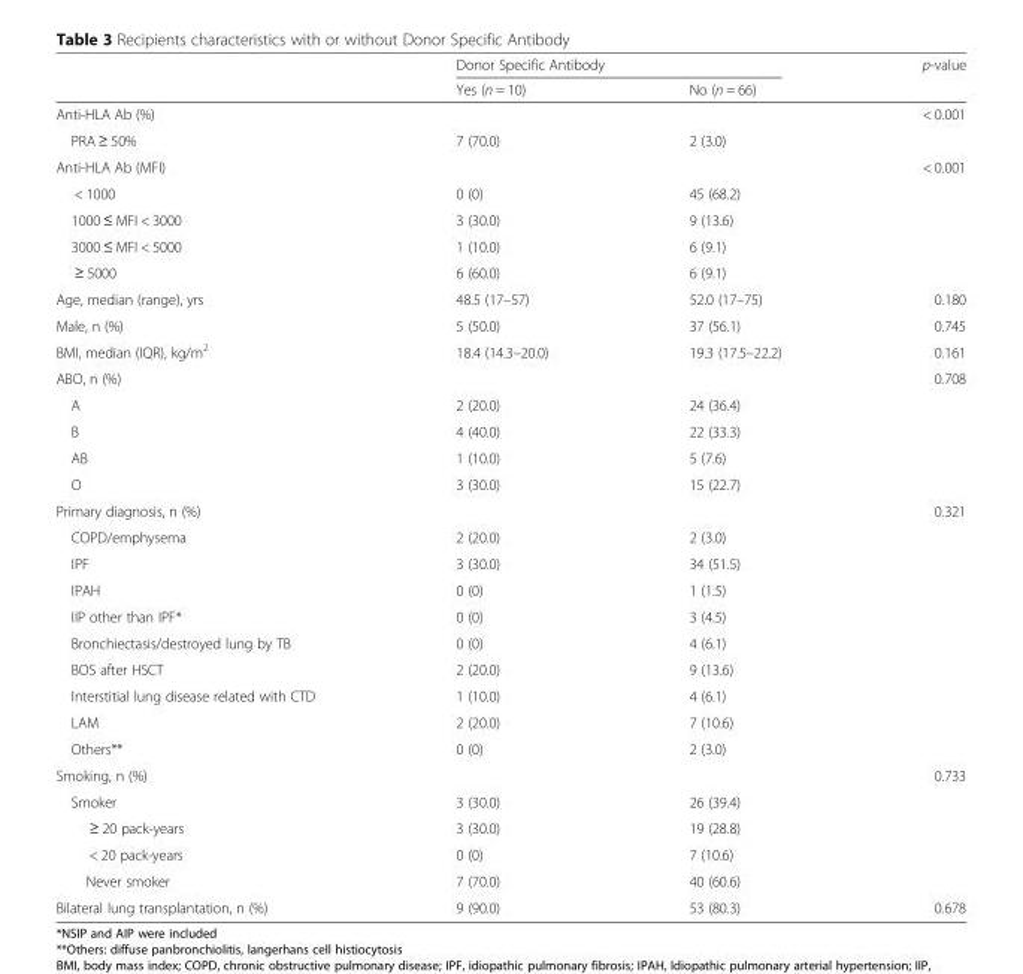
<table><thead><tr><td rowspan="2"></td><td colspan="2">Donor Specific Antibody</td><td rowspan="2">p-value</td></tr><tr><td>Yes (n = 10)</td><td>No (n = 66)</td></tr></thead><tbody><tr><td>Anti-HLA Ab (%)</td><td></td><td></td><td>&lt; 0.001</td></tr><tr><td>PRA ≥ 50%</td><td>7 (70.0)</td><td>2 (3.0)</td><td></td></tr><tr><td>Anti-HLA Ab (MFI)</td><td></td><td></td><td>&lt; 0.001</td></tr><tr><td>&lt; 1000</td><td>0 (0)</td><td>45 (68.2)</td><td></td></tr><tr><td>1000 ≤ MFI &lt; 3000</td><td>3 (30.0)</td><td>9 (13.6)</td><td></td></tr><tr><td>3000 ≤ MFI &lt; 5000</td><td>1 (10.0)</td><td>6 (9.1)</td><td></td></tr><tr><td>≥ 5000</td><td>6 (60.0)</td><td>6 (9.1)</td><td></td></tr><tr><td>Age, median (range), yrs</td><td>48.5 (17–57)</td><td>52.0 (17–75)</td><td>0.180</td></tr><tr><td>Male, n (%)</td><td>5 (50.0)</td><td>37 (56.1)</td><td>0.745</td></tr><tr><td>BMI, median (IQR), kg/m<sup>2</sup></td><td>18.4 (14.3–20.0)</td><td>19.3 (17.5–22.2)</td><td>0.161</td></tr><tr><td>ABO, n (%)</td><td></td><td></td><td>0.708</td></tr><tr><td>A</td><td>2 (20.0)</td><td>24 (36.4)</td><td></td></tr><tr><td>B</td><td>4 (40.0)</td><td>22 (33.3)</td><td></td></tr><tr><td>AB</td><td>1 (10.0)</td><td>5 (7.6)</td><td></td></tr><tr><td>O</td><td>3 (30.0)</td><td>15 (22.7)</td><td></td></tr><tr><td>Primary diagnosis, n (%)</td><td></td><td></td><td>0.321</td></tr><tr><td>COPD/emphysema</td><td>2 (20.0)</td><td>2 (3.0)</td><td></td></tr><tr><td>IPF</td><td>3 (30.0)</td><td>34 (51.5)</td><td></td></tr><tr><td>IPAH</td><td>0 (0)</td><td>1 (1.5)</td><td></td></tr><tr><td>IIP other than IPF*</td><td>0 (0)</td><td>3 (4.5)</td><td></td></tr><tr><td>Bronchiectasis/destroyed lung by TB</td><td>0 (0)</td><td>4 (6.1)</td><td></td></tr><tr><td>BOS after HSCT</td><td>2 (20.0)</td><td>9 (13.6)</td><td></td></tr><tr><td>Interstitial lung disease related with CTD</td><td>1 (10.0)</td><td>4 (6.1)</td><td></td></tr><tr><td>LAM</td><td>2 (20.0)</td><td>7 (10.6)</td><td></td></tr><tr><td>Others**</td><td>0 (0)</td><td>2 (3.0)</td><td></td></tr><tr><td>Smoking, n (%)</td><td></td><td></td><td>0.733</td></tr><tr><td>Smoker</td><td>3 (30.0)</td><td>26 (39.4)</td><td></td></tr><tr><td>≥ 20 pack-years</td><td>3 (30.0)</td><td>19 (28.8)</td><td></td></tr><tr><td>&lt; 20 pack-years</td><td>0 (0)</td><td>7 (10.6)</td><td></td></tr><tr><td>Never smoker</td><td>7 (70.0)</td><td>40 (60.6)</td><td></td></tr><tr><td>Bilateral lung transplantation, n (%)</td><td>9 (90.0)</td><td>53 (80.3)</td><td>0.678</td></tr></tbody></table>